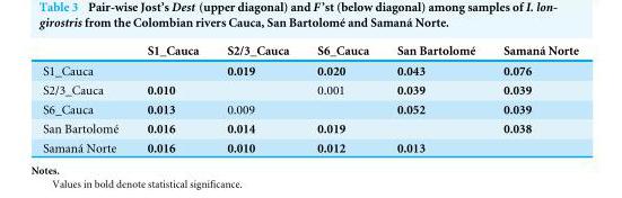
<table><thead><tr><td></td><td>S1_Cauca</td><td>S2/3_Cauca</td><td>S6_Cauca</td><td>San Bartolomé</td><td>Samaná Norte</td></tr></thead><tbody><tr><td>S1_Cauca</td><td></td><td>0.019</td><td>0.020</td><td>0.043</td><td>0.076</td></tr><tr><td>S2/3_Cauca</td><td>0.010</td><td></td><td>0.001</td><td>0.039</td><td>0.039</td></tr><tr><td>S6_Cauca</td><td>0.013</td><td>0.009</td><td></td><td>0.052</td><td>0.039</td></tr><tr><td>San Bartolomé</td><td>0.016</td><td>0.014</td><td>0.019</td><td></td><td>0.038</td></tr><tr><td>Samaná Norte</td><td>0.016</td><td>0.010</td><td>0.012</td><td>0.013</td><td></td></tr></tbody></table>